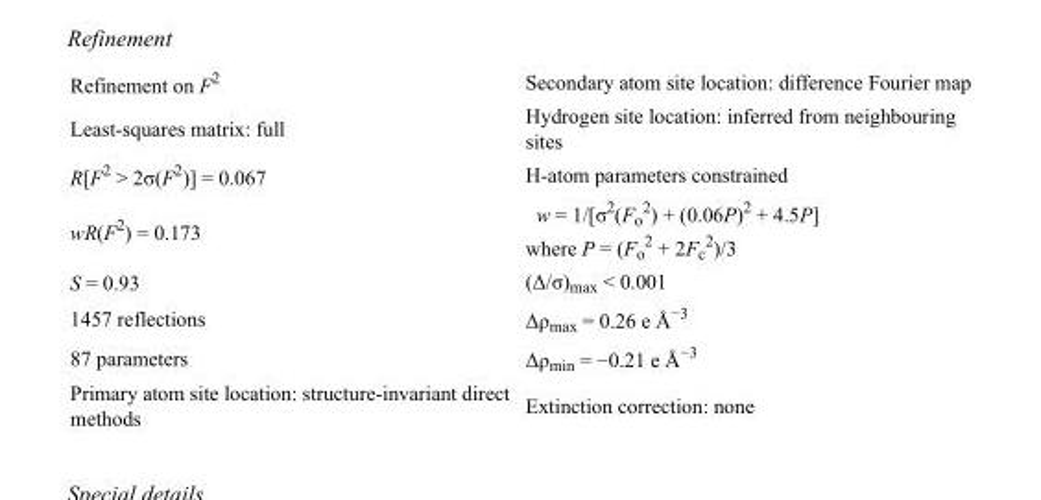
<table><tbody><tr><td>Refinement on F<sup>2</sup></td><td>Secondary atom site location: difference Fourier map</td></tr><tr><td>Least-squares matrix: full</td><td>Hydrogen site location: inferred from neighbouring sites</td></tr><tr><td>R[F<sup>2</sup> &gt; 2σ(F<sup>2</sup>)] = 0.067</td><td>H-atom parameters constrained</td></tr><tr><td>wR(F<sup>2</sup>) = 0.173</td><td>w = 1/[σ<sup>2</sup>(F<sub>o</sub> <sup>2</sup>) + (0.06P)<sup>2</sup> + 4.5P] where P = (F<sub>o</sub> <sup>2</sup> + 2F<sub>c</sub> <sup>2</sup>)/3</td></tr><tr><td>S = 0.93</td><td>(Δ/σ)<sub>max</sub> &lt; 0.001</td></tr><tr><td>1457 reflections</td><td>Δρ<sub>max</sub> = 0.26 e Å<sup>−3</sup></td></tr><tr><td>87 parameters</td><td>Δρ<sub>min</sub> = −0.21 e Å<sup>−3</sup></td></tr><tr><td>Primary atom site location: structure-invariant direct methods</td><td>Extinction correction: none</td></tr></tbody></table>